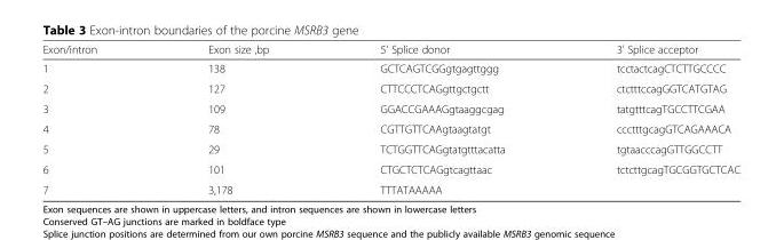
<table><thead><tr><td>Exon/intron</td><td>Exon size ,bp</td><td>5’ Splice donor</td><td>3’ Splice acceptor</td></tr></thead><tbody><tr><td>1</td><td>138</td><td>GCTCAGTCGGgtgagttggg</td><td>tcctactcagCTCTTGCCCC</td></tr><tr><td>2</td><td>127</td><td>CTTCCCTCAGgttgctgctt</td><td>ctctttccagGGTCATGTAG</td></tr><tr><td>3</td><td>109</td><td>GGACCGAAAGgtaaggcgag</td><td>tatgtttcagTGCCTTCGAA</td></tr><tr><td>4</td><td>78</td><td>CGTTGTTCAAgtaagtatgt</td><td>ccctttgcagGTCAGAAACA</td></tr><tr><td>5</td><td>29</td><td>TCTGGTTCAGgtatgtttacatta</td><td>tgtaacccagGTTGGCCTT</td></tr><tr><td>6</td><td>101</td><td>CTGCTCTCAGgtcagttaac</td><td>tctcttgcagTGCGGTGCTCAC</td></tr><tr><td>7</td><td>3,178</td><td>TTTATAAAAA</td><td></td></tr></tbody></table>